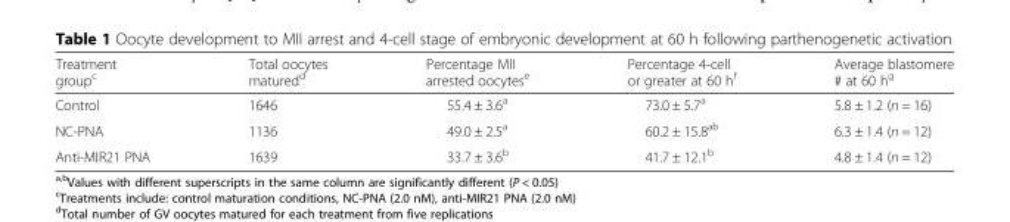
<table><thead><tr><td>Treatment group<sup>c</sup></td><td>Total oocytes matured<sup>d</sup></td><td>Percentage MII arrested oocytes<sup>e</sup></td><td>Percentage 4-cell or greater at 60 h<sup>f</sup></td><td>Average blastomere # at 60 h<sup>g</sup></td></tr></thead><tbody><tr><td>Control</td><td>1646</td><td>55.4 ± 3.6<sup>a</sup></td><td>73.0 ± 5.7<sup>a</sup></td><td>5.8 ± 1.2 (n = 16)</td></tr><tr><td>NC-PNA</td><td>1136</td><td>49.0 ± 2.5<sup>a</sup></td><td>60.2 ± 15.8<sup>ab</sup></td><td>6.3 ± 1.4 (n = 12)</td></tr><tr><td>Anti-MIR21 PNA</td><td>1639</td><td>33.7 ± 3.6<sup>b</sup></td><td>41.7 ± 12.1<sup>b</sup></td><td>4.8 ± 1.4 (n = 12)</td></tr></tbody></table>